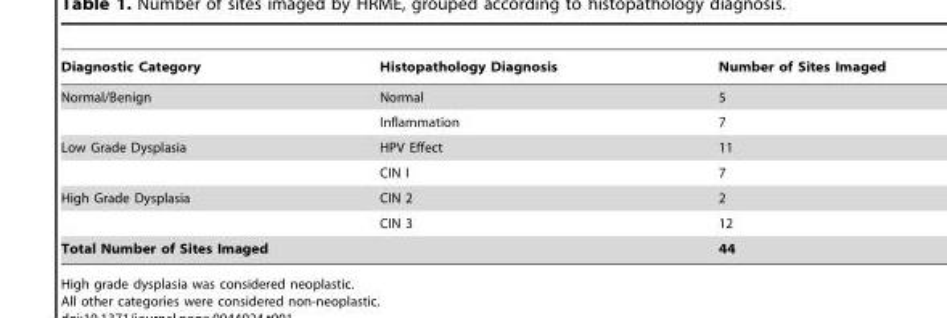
<table><thead><tr><td>Diagnostic Category</td><td>Histopathology Diagnosis</td><td>Number of Sites Imaged</td></tr></thead><tbody><tr><td rowspan="2">Normal/Benign</td><td>Normal</td><td>5</td></tr><tr><td>Inflammation</td><td>7</td></tr><tr><td rowspan="2">Low Grade Dysplasia</td><td>HPV Effect</td><td>11</td></tr><tr><td>CIN I</td><td>7</td></tr><tr><td rowspan="2">High Grade Dysplasia</td><td>CIN 2</td><td>2</td></tr><tr><td>CIN 3</td><td>12</td></tr><tr><td colspan="2">Total Number of Sites Imaged</td><td>44</td></tr></tbody></table>